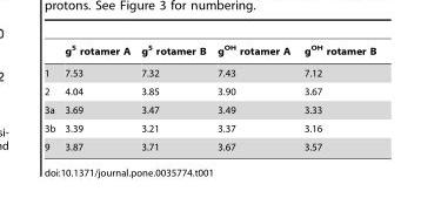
<table><thead><tr><td></td><td>g<sup>S</sup> rotamer A</td><td>g<sup>S</sup> rotamer B</td><td>g<sup>OH</sup> rotamer A</td><td>g<sup>OH</sup> rotamer B</td></tr></thead><tbody><tr><td>1</td><td>7.53</td><td>7.32</td><td>7.43</td><td>7.12</td></tr><tr><td>2</td><td>4.04</td><td>3.85</td><td>3.90</td><td>3.67</td></tr><tr><td>3a</td><td>3.69</td><td>3.47</td><td>3.49</td><td>3.33</td></tr><tr><td>3b</td><td>3.39</td><td>3.21</td><td>3.37</td><td>3.16</td></tr><tr><td>9</td><td>3.87</td><td>3.71</td><td>3.67</td><td>3.57</td></tr></tbody></table>